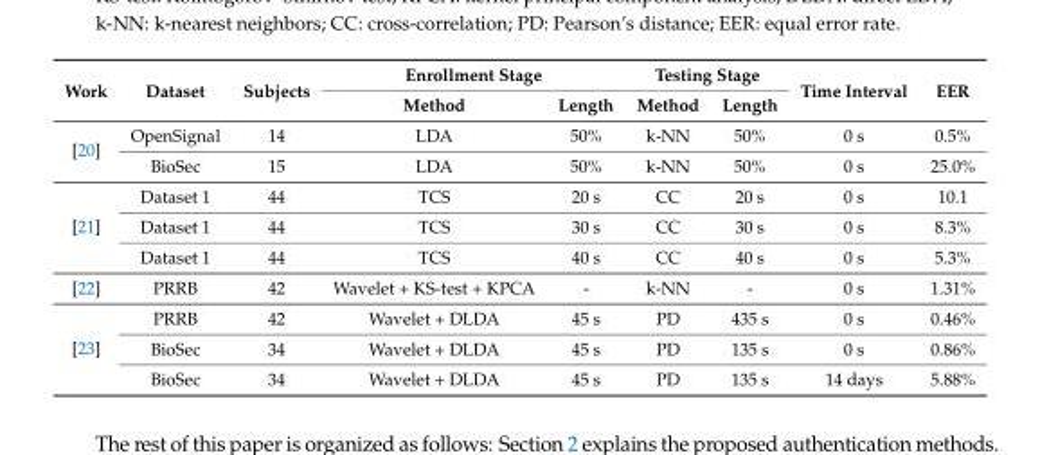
<table><thead><tr><td rowspan="2">Work</td><td rowspan="2">Dataset</td><td rowspan="2">Subjects</td><td colspan="2">Enrollment Stage</td><td colspan="2">Testing Stage</td><td rowspan="2">Time Interval</td><td rowspan="2">EER</td></tr><tr><td>Method</td><td>Length</td><td>Method</td><td>Length</td></tr></thead><tbody><tr><td rowspan="2">[20]</td><td>OpenSignal</td><td>14</td><td>LDA</td><td>50%</td><td>k-NN</td><td>50%</td><td>0 s</td><td>0.5%</td></tr><tr><td>BioSec</td><td>15</td><td>LDA</td><td>50%</td><td>k-NN</td><td>50%</td><td>0 s</td><td>25.0%</td></tr><tr><td rowspan="3">[21]</td><td>Dataset 1</td><td>44</td><td>TCS</td><td>20 s</td><td>CC</td><td>20 s</td><td>0 s</td><td>10.1</td></tr><tr><td>Dataset 1</td><td>44</td><td>TCS</td><td>30 s</td><td>CC</td><td>30 s</td><td>0 s</td><td>8.3%</td></tr><tr><td>Dataset 1</td><td>44</td><td>TCS</td><td>40 s</td><td>CC</td><td>40 s</td><td>0 s</td><td>5.3%</td></tr><tr><td>[22]</td><td>PRRB</td><td>42</td><td>Wavelet + KS-test + KPCA</td><td>-</td><td>k-NN</td><td>-</td><td>0 s</td><td>1.31%</td></tr><tr><td rowspan="3">[23]</td><td>PRRB</td><td>42</td><td>Wavelet + DLDA</td><td>45 s</td><td>PD</td><td>435 s</td><td>0 s</td><td>0.46%</td></tr><tr><td>BioSec</td><td>34</td><td>Wavelet + DLDA</td><td>45 s</td><td>PD</td><td>135 s</td><td>0 s</td><td>0.86%</td></tr><tr><td>BioSec</td><td>34</td><td>Wavelet + DLDA</td><td>45 s</td><td>PD</td><td>135 s</td><td>14 days</td><td>5.88%</td></tr></tbody></table>